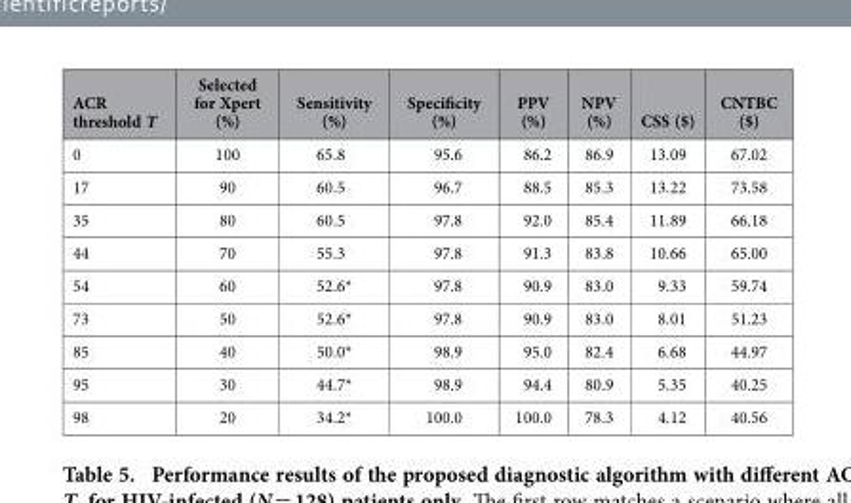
<table><thead><tr><td>ACR threshold T</td><td>Selected for Xpert (%)</td><td>Sensitivity (%)</td><td>Specificity (%)</td><td>PPV (%)</td><td>NPV (%)</td><td>CSS ($)</td><td>CNTBC ($)</td></tr></thead><tbody><tr><td>0</td><td>100</td><td>65.8</td><td>95.6</td><td>86.2</td><td>86.9</td><td>13.09</td><td>67.02</td></tr><tr><td>17</td><td>90</td><td>60.5</td><td>96.7</td><td>88.5</td><td>85.3</td><td>13.22</td><td>73.58</td></tr><tr><td>35</td><td>80</td><td>60.5</td><td>97.8</td><td>92.0</td><td>85.4</td><td>11.89</td><td>66.18</td></tr><tr><td>44</td><td>70</td><td>55.3</td><td>97.8</td><td>91.3</td><td>83.8</td><td>10.66</td><td>65.00</td></tr><tr><td>54</td><td>60</td><td>52.6*</td><td>97.8</td><td>90.9</td><td>83.0</td><td>9.33</td><td>59.74</td></tr><tr><td>73</td><td>50</td><td>52.6*</td><td>97.8</td><td>90.9</td><td>83.0</td><td>8.01</td><td>51.23</td></tr><tr><td>85</td><td>40</td><td>50.0*</td><td>98.9</td><td>95.0</td><td>82.4</td><td>6.68</td><td>44.97</td></tr><tr><td>95</td><td>30</td><td>44.7*</td><td>98.9</td><td>94.4</td><td>80.9</td><td>5.35</td><td>40.25</td></tr><tr><td>98</td><td>20</td><td>34.2*</td><td>100.0</td><td>100.0</td><td>78.3</td><td>4.12</td><td>40.56</td></tr></tbody></table>